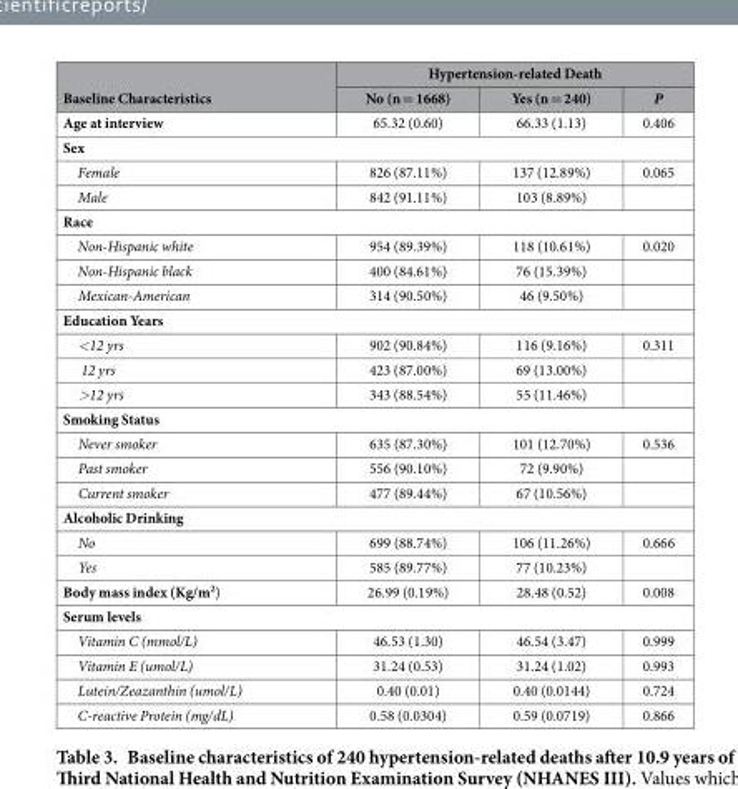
<table><thead><tr><td rowspan="2">Baseline Characteristics</td><td colspan="3">Hypertension-related Death</td></tr><tr><td>No (n = 1668)</td><td>Yes (n = 240)</td><td>P</td></tr></thead><tbody><tr><td>Age at interview</td><td>65.32 (0.60)</td><td>66.33 (1.13)</td><td>0.406</td></tr><tr><td colspan="4">Sex</td></tr><tr><td>Female</td><td>826 (87.11%)</td><td>137 (12.89%)</td><td>0.065</td></tr><tr><td>Male</td><td>842 (91.11%)</td><td>103 (8.89%)</td><td></td></tr><tr><td colspan="4">Race</td></tr><tr><td>Non-Hispanic white</td><td>954 (89.39%)</td><td>118 (10.61%)</td><td>0.020</td></tr><tr><td>Non-Hispanic black</td><td>400 (84.61%)</td><td>76 (15.39%)</td><td></td></tr><tr><td>Mexican-American</td><td>314 (90.50%)</td><td>46 (9.50%)</td><td></td></tr><tr><td colspan="4">Education Years</td></tr><tr><td>&lt;12 yrs</td><td>902 (90.84%)</td><td>116 (9.16%)</td><td>0.311</td></tr><tr><td>12 yrs</td><td>423 (87.00%)</td><td>69 (13.00%)</td><td></td></tr><tr><td>&gt;12 yrs</td><td>343 (88.54%)</td><td>55 (11.46%)</td><td></td></tr><tr><td colspan="4">Smoking Status</td></tr><tr><td>Never smoker</td><td>635 (87.30%)</td><td>101 (12.70%)</td><td>0.536</td></tr><tr><td>Past smoker</td><td>556 (90.10%)</td><td>72 (9.90%)</td><td></td></tr><tr><td>Current smoker</td><td>477 (89.44%)</td><td>67 (10.56%)</td><td></td></tr><tr><td colspan="4">Alcoholic Drinking</td></tr><tr><td>No</td><td>699 (88.74%)</td><td>106 (11.26%)</td><td>0.666</td></tr><tr><td>Yes</td><td>585 (89.77%)</td><td>77 (10.23%)</td><td></td></tr><tr><td>Body mass index (Kg/m<sup>2</sup>)</td><td>26.99 (0.19%)</td><td>28.48 (0.52)</td><td>0.008</td></tr><tr><td colspan="4">Serum levels</td></tr><tr><td>Vitamin C (mmol/L)</td><td>46.53 (1.30)</td><td>46.54 (3.47)</td><td>0.999</td></tr><tr><td>Vitamin E (umol/L)</td><td>31.24 (0.53)</td><td>31.24 (1.02)</td><td>0.993</td></tr><tr><td>Lutein/Zeazanthin (umol/L)</td><td>0.40 (0.01)</td><td>0.40 (0.0144)</td><td>0.724</td></tr><tr><td>C-reactive Protein (mg/dL)</td><td>0.58 (0.0304)</td><td>0.59 (0.0719)</td><td>0.866</td></tr></tbody></table>